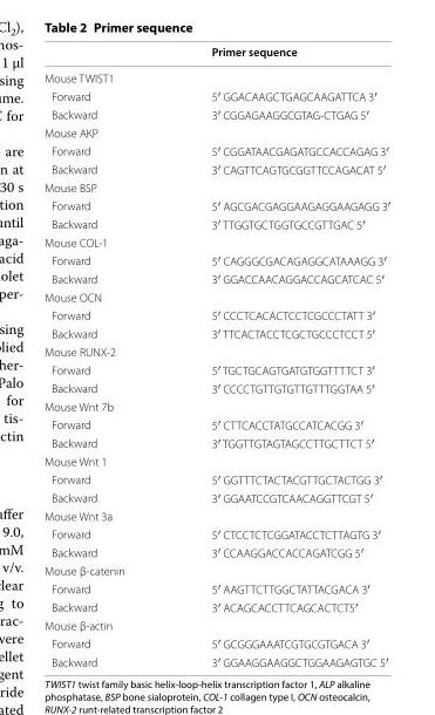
<table><thead><tr><td></td><td>Primer sequence</td></tr></thead><tbody><tr><td colspan="2">Mouse TWIST1</td></tr><tr><td>Forward</td><td>5′ GGA CAA GCT GAG CAA GAT TCA 3′</td></tr><tr><td>Backward</td><td>3′ CGG AGA AGG CGT AG-CTGAG 5′</td></tr><tr><td colspan="2">Mouse AKP</td></tr><tr><td>Forward</td><td>5′ CGG ATA ACG AGA TGC CAC CAGAG 3′</td></tr><tr><td>Backward</td><td>3′ CAG TTC AGT GCG GTT CCA GACAT 5′</td></tr><tr><td colspan="2">Mouse BSP</td></tr><tr><td>Forward</td><td>5′ AGC GAC GAG GAA GAG GAA GAGG 3′</td></tr><tr><td>Backward</td><td>3′ TTG GTG CTG GTG CCG TTG AC 5′</td></tr><tr><td colspan="2">Mouse COL-1</td></tr><tr><td>Forward</td><td>5′ CAG GGC GAC AGA GGC ATA AAGG 3′</td></tr><tr><td>Backward</td><td>3′ GGA CCA ACA GGA CCA GCA TCAC 5′</td></tr><tr><td colspan="2">Mouse OCN</td></tr><tr><td>Forward</td><td>5′ CCC TCA CAC TCC TCG CCC TATT 3′</td></tr><tr><td>Backward</td><td>3′ TTC ACT ACC TCG CTG CCC TCCT 5′</td></tr><tr><td colspan="2">Mouse RUNX-2</td></tr><tr><td>Forward</td><td>5′ TGC TGC AGT GAT GTG GTT TTCT 3′</td></tr><tr><td>Backward</td><td>3′ CCC CTG TTG TGT TGT TTG GTAA 5′</td></tr><tr><td colspan="2">Mouse Wnt 7b</td></tr><tr><td>Forward</td><td>5′ CTT CAC CTA TGC CAT CAC GG 3′</td></tr><tr><td>Backward</td><td>3′ TGG TTG TAG TAG CCT TGC TTCT 5′</td></tr><tr><td colspan="2">Mouse Wnt 1</td></tr><tr><td>Forward</td><td>5′ GGT TTC TAC TAC GTT GCT ACTGG 3′</td></tr><tr><td>Backward</td><td>3′ GGA ATC CGT CAA CAG GTT CGT 5′</td></tr><tr><td colspan="2">Mouse Wnt 3a</td></tr><tr><td>Forward</td><td>5′ CTC CTC TCG GAT ACC TCT TAGTG 3′</td></tr><tr><td>Backward</td><td>3′ CCA AGG ACC ACC AGA TCG G 5′</td></tr><tr><td colspan="2">Mouse β-catenin</td></tr><tr><td>Forward</td><td>5′ AAG TTC TTG GCT ATT ACG ACA 3′</td></tr><tr><td>Backward</td><td>3′ ACA GCA CCT TCA GCA CTC T5′</td></tr><tr><td colspan="2">Mouse β-actin</td></tr><tr><td>Forward</td><td>5′ GCG GGA AAT CGT GCG TGA CA 3′</td></tr><tr><td>Backward</td><td>3′ GGA AGG AAG GCT GGA AGA GTGC 5′</td></tr></tbody></table>